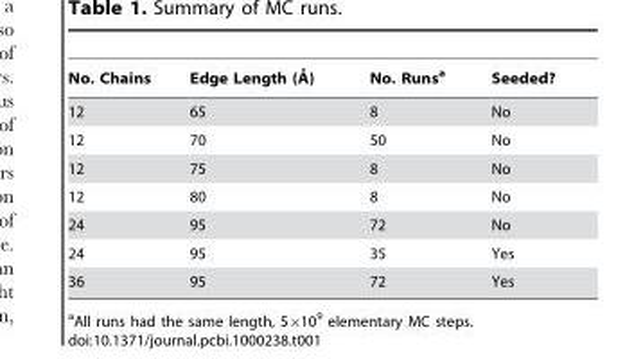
<table><thead><tr><td>No. Chains</td><td>Edge Length (A˚ )</td><td>No. Runs<sup>a</sup></td><td>Seeded?</td></tr></thead><tbody><tr><td>12</td><td>65</td><td>8</td><td>No</td></tr><tr><td>12</td><td>70</td><td>50</td><td>No</td></tr><tr><td>12</td><td>75</td><td>8</td><td>No</td></tr><tr><td>12</td><td>80</td><td>8</td><td>No</td></tr><tr><td>24</td><td>95</td><td>72</td><td>No</td></tr><tr><td>24</td><td>95</td><td>35</td><td>Yes</td></tr><tr><td>36</td><td>95</td><td>72</td><td>Yes</td></tr></tbody></table>